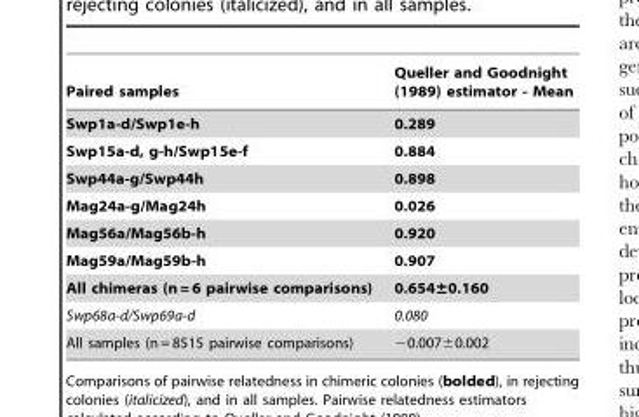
<table><thead><tr><td>Paired samples</td><td>Queller and Goodnight (1989) estimator - Mean</td></tr></thead><tbody><tr><td>Swp1a-d/Swp1e-h</td><td>0.289</td></tr><tr><td>Swp15a-d, g-h/Swp15e-f</td><td>0.884</td></tr><tr><td>Swp44a-g/Swp44h</td><td>0.898</td></tr><tr><td>Mag24a-g/Mag24h</td><td>0.026</td></tr><tr><td>Mag56a/Mag56b-h</td><td>0.920</td></tr><tr><td>Mag59a/Mag59b-h</td><td>0.907</td></tr><tr><td>All chimeras (n = 6 pairwise comparisons)</td><td>0.654±0.160</td></tr><tr><td>Swp68a-d/Swp69a-d</td><td>0.080</td></tr><tr><td>All samples (n = 8515 pairwise comparisons)</td><td>−0.007±0.002</td></tr></tbody></table>